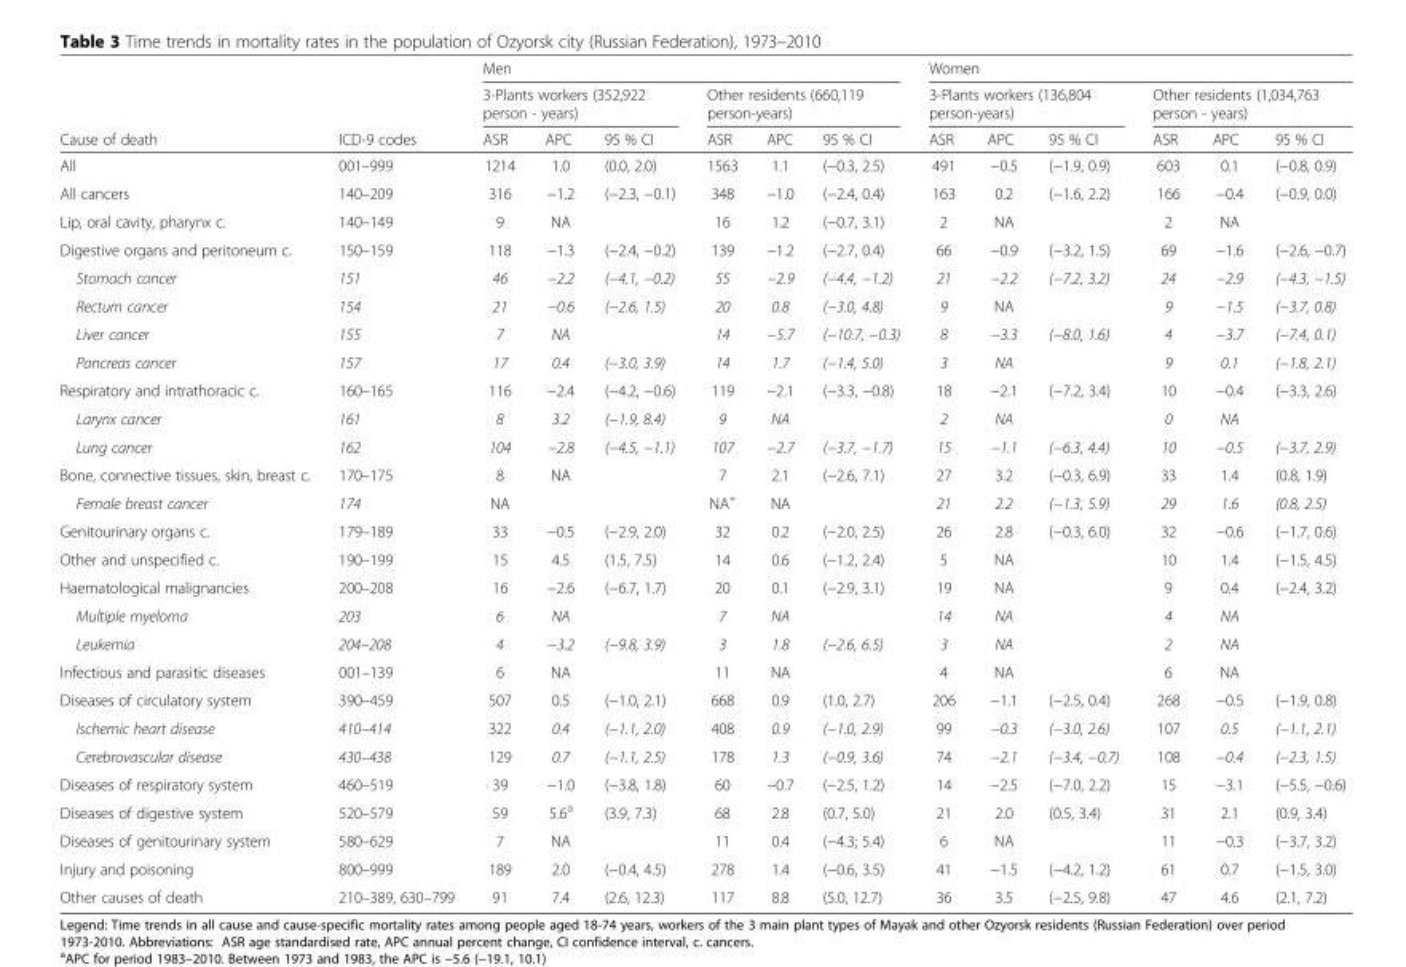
<table><thead><tr><td rowspan="3">Cause of death</td><td rowspan="3">ICD-9 codes</td><td colspan="6">Men</td><td colspan="6">Women</td></tr><tr><td colspan="3">3-Plants workers (352,922 person - years)</td><td colspan="3">Other residents (660,119 person-years)</td><td colspan="3">3-Plants workers (136,804 person-years)</td><td colspan="3">Other residents (1,034,763 person - years)</td></tr><tr><td>ASR</td><td>APC</td><td>95 % CI</td><td>ASR</td><td>APC</td><td>95 % CI</td><td>ASR</td><td>APC</td><td>95 % CI</td><td>ASR</td><td>APC</td><td>95 % CI</td></tr></thead><tbody><tr><td>All</td><td>001–999</td><td>1214</td><td>1.0</td><td>(0.0, 2.0)</td><td>1563</td><td>1.1</td><td>(−0.3, 2.5)</td><td>491</td><td>−0.5</td><td>(−1.9, 0.9)</td><td>603</td><td>0.1</td><td>(−0.8, 0.9)</td></tr><tr><td>All cancers</td><td>140–209</td><td>316</td><td>−1.2</td><td>(−2.3, −0.1)</td><td>348</td><td>−1.0</td><td>(−2.4, 0.4)</td><td>163</td><td>0.2</td><td>(−1.6, 2.2)</td><td>166</td><td>−0.4</td><td>(−0.9, 0.0)</td></tr><tr><td>Lip, oral cavity, pharynx c.</td><td>140–149</td><td>9</td><td>NA</td><td></td><td>16</td><td>1.2</td><td>(−0.7, 3.1)</td><td>2</td><td>NA</td><td></td><td>2</td><td>NA</td><td></td></tr><tr><td>Digestive organs and peritoneum c.</td><td>150–159</td><td>118</td><td>−1.3</td><td>(−2.4, −0.2)</td><td>139</td><td>−1.2</td><td>(−2.7, 0.4)</td><td>66</td><td>−0.9</td><td>(−3.2, 1.5)</td><td>69</td><td>−1.6</td><td>(−2.6, −0.7)</td></tr><tr><td>Stomach cancer</td><td>151</td><td>46</td><td>−2.2</td><td>(−4.1, −0.2)</td><td>55</td><td>−2.9</td><td>(−4.4, −1.2)</td><td>21</td><td>−2.2</td><td>(−7.2, 3.2)</td><td>24</td><td>−2.9</td><td>(−4.3, −1.5)</td></tr><tr><td>Rectum cancer</td><td>154</td><td>21</td><td>−0.6</td><td>(−2.6, 1.5)</td><td>20</td><td>0.8</td><td>(−3.0, 4.8)</td><td>9</td><td>NA</td><td></td><td>9</td><td>−1.5</td><td>(−3.7, 0.8)</td></tr><tr><td>Liver cancer</td><td>155</td><td>7</td><td>NA</td><td></td><td>14</td><td>−5.7</td><td>(−10.7, −0.3)</td><td>8</td><td>−3.3</td><td>(−8.0, 1.6)</td><td>4</td><td>−3.7</td><td>(−7.4, 0.1)</td></tr><tr><td>Pancreas cancer</td><td>157</td><td>17</td><td>0.4</td><td>(−3.0, 3.9)</td><td>14</td><td>1.7</td><td>(−1.4, 5.0)</td><td>3</td><td>NA</td><td></td><td>9</td><td>0.1</td><td>(−1.8, 2.1)</td></tr><tr><td>Respiratory and intrathoracic c.</td><td>160–165</td><td>116</td><td>−2.4</td><td>(−4.2, −0.6)</td><td>119</td><td>−2.1</td><td>(−3.3, −0.8)</td><td>18</td><td>−2.1</td><td>(−7.2, 3.4)</td><td>10</td><td>−0.4</td><td>(−3.3, 2.6)</td></tr><tr><td>Larynx cancer</td><td>161</td><td>8</td><td>3.2</td><td>(−1.9, 8.4)</td><td>9</td><td>NA</td><td></td><td>2</td><td>NA</td><td></td><td>0</td><td>NA</td><td></td></tr><tr><td>Lung cancer</td><td>162</td><td>104</td><td>−2.8</td><td>(−4.5, −1.1)</td><td>107</td><td>−2.7</td><td>(−3.7, −1.7)</td><td>15</td><td>−1.1</td><td>(−6.3, 4.4)</td><td>10</td><td>−0.5</td><td>(−3.7, 2.9)</td></tr><tr><td>Bone, connective tissues, skin, breast c.</td><td>170–175</td><td>8</td><td>NA</td><td></td><td>7</td><td>2.1</td><td>(−2.6, 7.1)</td><td>27</td><td>3.2</td><td>(−0.3, 6.9)</td><td>33</td><td>1.4</td><td>(0.8, 1.9)</td></tr><tr><td>Female breast cancer</td><td>174</td><td>NA</td><td></td><td></td><td>NA<sup>+</sup></td><td>NA</td><td></td><td>21</td><td>2.2</td><td>(−1.3, 5.9)</td><td>29</td><td>1.6</td><td>(0.8, 2.5)</td></tr><tr><td>Genitourinary organs c.</td><td>179–189</td><td>33</td><td>−0.5</td><td>(−2.9, 2.0)</td><td>32</td><td>0.2</td><td>(−2.0, 2.5)</td><td>26</td><td>2.8</td><td>(−0.3, 6.0)</td><td>32</td><td>−0.6</td><td>(−1.7, 0.6)</td></tr><tr><td>Other and unspecified c.</td><td>190–199</td><td>15</td><td>4.5</td><td>(1.5, 7.5)</td><td>14</td><td>0.6</td><td>(−1.2, 2.4)</td><td>5</td><td>NA</td><td></td><td>10</td><td>1.4</td><td>(−1.5, 4.5)</td></tr><tr><td>Haematological malignancies</td><td>200–208</td><td>16</td><td>−2.6</td><td>(−6.7, 1.7)</td><td>20</td><td>0.1</td><td>(−2.9, 3.1)</td><td>19</td><td>NA</td><td></td><td>9</td><td>0.4</td><td>(−2.4, 3.2)</td></tr><tr><td>Multiple myeloma</td><td>203</td><td>6</td><td>NA</td><td></td><td>7</td><td>NA</td><td></td><td>14</td><td>NA</td><td></td><td>4</td><td>NA</td><td></td></tr><tr><td>Leukemia</td><td>204–208</td><td>4</td><td>−3.2</td><td>(−9.8, 3.9)</td><td>3</td><td>1.8</td><td>(−2.6, 6.5)</td><td>3</td><td>NA</td><td></td><td>2</td><td>NA</td><td></td></tr><tr><td>Infectious and parasitic diseases</td><td>001–139</td><td>6</td><td>NA</td><td></td><td>11</td><td>NA</td><td></td><td>4</td><td>NA</td><td></td><td>6</td><td>NA</td><td></td></tr><tr><td>Diseases of circulatory system</td><td>390–459</td><td>507</td><td>0.5</td><td>(−1.0, 2.1)</td><td>668</td><td>0.9</td><td>(1.0, 2.7)</td><td>206</td><td>−1.1</td><td>(−2.5, 0.4)</td><td>268</td><td>−0.5</td><td>(−1.9, 0.8)</td></tr><tr><td>Ischemic heart disease</td><td>410–414</td><td>322</td><td>0.4</td><td>(−1.1, 2.0)</td><td>408</td><td>0.9</td><td>(−1.0, 2.9)</td><td>99</td><td>−0.3</td><td>(−3.0, 2.6)</td><td>107</td><td>0.5</td><td>(−1.1, 2.1)</td></tr><tr><td>Cerebrovascular disease</td><td>430–438</td><td>129</td><td>0.7</td><td>(−1.1, 2.5)</td><td>178</td><td>1.3</td><td>(−0.9, 3.6)</td><td>74</td><td>−2.1</td><td>(−3.4, −0.7)</td><td>108</td><td>−0.4</td><td>(−2.3, 1.5)</td></tr><tr><td>Diseases of respiratory system</td><td>460–519</td><td>39</td><td>−1.0</td><td>(−3.8, 1.8)</td><td>60</td><td>−0.7</td><td>(−2.5, 1.2)</td><td>14</td><td>−2.5</td><td>(−7.0, 2.2)</td><td>15</td><td>−3.1</td><td>(−5.5, −0.6)</td></tr><tr><td>Diseases of digestive system</td><td>520–579</td><td>59</td><td>5.6<sup>a</sup></td><td>(3.9, 7.3)</td><td>68</td><td>2.8</td><td>(0.7, 5.0)</td><td>21</td><td>2.0</td><td>(0.5, 3.4)</td><td>31</td><td>2.1</td><td>(0.9, 3.4)</td></tr><tr><td>Diseases of genitourinary system</td><td>580–629</td><td>7</td><td>NA</td><td></td><td>11</td><td>0.4</td><td>(−4.3; 5.4)</td><td>6</td><td>NA</td><td></td><td>11</td><td>−0.3</td><td>(−3.7, 3.2)</td></tr><tr><td>Injury and poisoning</td><td>800–999</td><td>189</td><td>2.0</td><td>(−0.4, 4.5)</td><td>278</td><td>1.4</td><td>(−0.6, 3.5)</td><td>41</td><td>−1.5</td><td>(−4.2, 1.2)</td><td>61</td><td>0.7</td><td>(−1.5, 3.0)</td></tr><tr><td>Other causes of death</td><td>210–389, 630–799</td><td>91</td><td>7.4</td><td>(2.6, 12.3)</td><td>117</td><td>8.8</td><td>(5.0, 12.7)</td><td>36</td><td>3.5</td><td>(−2.5, 9.8)</td><td>47</td><td>4.6</td><td>(2.1, 7.2)</td></tr></tbody></table>